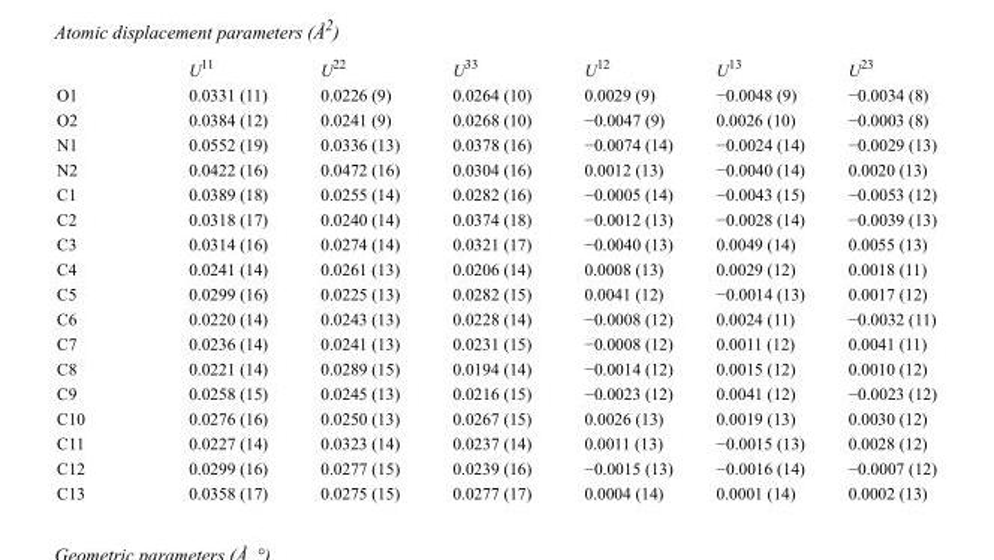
<table><thead><tr><td></td><td>U<sup>11</sup></td><td>U<sup>22</sup></td><td>U<sup>33</sup></td><td>U<sup>12</sup></td><td>U<sup>13</sup></td><td>U<sup>23</sup></td></tr></thead><tbody><tr><td>O1</td><td>0.0331 (11)</td><td>0.0226 (9)</td><td>0.0264 (10)</td><td>0.0029 (9)</td><td>−0.0048 (9)</td><td>−0.0034 (8)</td></tr><tr><td>O2</td><td>0.0384 (12)</td><td>0.0241 (9)</td><td>0.0268 (10)</td><td>−0.0047 (9)</td><td>0.0026 (10)</td><td>−0.0003 (8)</td></tr><tr><td>N1</td><td>0.0552 (19)</td><td>0.0336 (13)</td><td>0.0378 (16)</td><td>−0.0074 (14)</td><td>−0.0024 (14)</td><td>−0.0029 (13)</td></tr><tr><td>N2</td><td>0.0422 (16)</td><td>0.0472 (16)</td><td>0.0304 (16)</td><td>0.0012 (13)</td><td>−0.0040 (14)</td><td>0.0020 (13)</td></tr><tr><td>C1</td><td>0.0389 (18)</td><td>0.0255 (14)</td><td>0.0282 (16)</td><td>−0.0005 (14)</td><td>−0.0043 (15)</td><td>−0.0053 (12)</td></tr><tr><td>C2</td><td>0.0318 (17)</td><td>0.0240 (14)</td><td>0.0374 (18)</td><td>−0.0012 (13)</td><td>−0.0028 (14)</td><td>−0.0039 (13)</td></tr><tr><td>C3</td><td>0.0314 (16)</td><td>0.0274 (14)</td><td>0.0321 (17)</td><td>−0.0040 (13)</td><td>0.0049 (14)</td><td>0.0055 (13)</td></tr><tr><td>C4</td><td>0.0241 (14)</td><td>0.0261 (13)</td><td>0.0206 (14)</td><td>0.0008 (13)</td><td>0.0029 (12)</td><td>0.0018 (11)</td></tr><tr><td>C5</td><td>0.0299 (16)</td><td>0.0225 (13)</td><td>0.0282 (15)</td><td>0.0041 (12)</td><td>−0.0014 (13)</td><td>0.0017 (12)</td></tr><tr><td>C6</td><td>0.0220 (14)</td><td>0.0243 (13)</td><td>0.0228 (14)</td><td>−0.0008 (12)</td><td>0.0024 (11)</td><td>−0.0032 (11)</td></tr><tr><td>C7</td><td>0.0236 (14)</td><td>0.0241 (13)</td><td>0.0231 (15)</td><td>−0.0008 (12)</td><td>0.0011 (12)</td><td>0.0041 (11)</td></tr><tr><td>C8</td><td>0.0221 (14)</td><td>0.0289 (15)</td><td>0.0194 (14)</td><td>−0.0014 (12)</td><td>0.0015 (12)</td><td>0.0010 (12)</td></tr><tr><td>C9</td><td>0.0258 (15)</td><td>0.0245 (13)</td><td>0.0216 (15)</td><td>−0.0023 (12)</td><td>0.0041 (12)</td><td>−0.0023 (12)</td></tr><tr><td>C10</td><td>0.0276 (16)</td><td>0.0250 (13)</td><td>0.0267 (15)</td><td>0.0026 (13)</td><td>0.0019 (13)</td><td>0.0030 (12)</td></tr><tr><td>C11</td><td>0.0227 (14)</td><td>0.0323 (14)</td><td>0.0237 (14)</td><td>0.0011 (13)</td><td>−0.0015 (13)</td><td>0.0028 (12)</td></tr><tr><td>C12</td><td>0.0299 (16)</td><td>0.0277 (15)</td><td>0.0239 (16)</td><td>−0.0015 (13)</td><td>−0.0016 (14)</td><td>−0.0007 (12)</td></tr><tr><td>C13</td><td>0.0358 (17)</td><td>0.0275 (15)</td><td>0.0277 (17)</td><td>0.0004 (14)</td><td>0.0001 (14)</td><td>0.0002 (13)</td></tr></tbody></table>